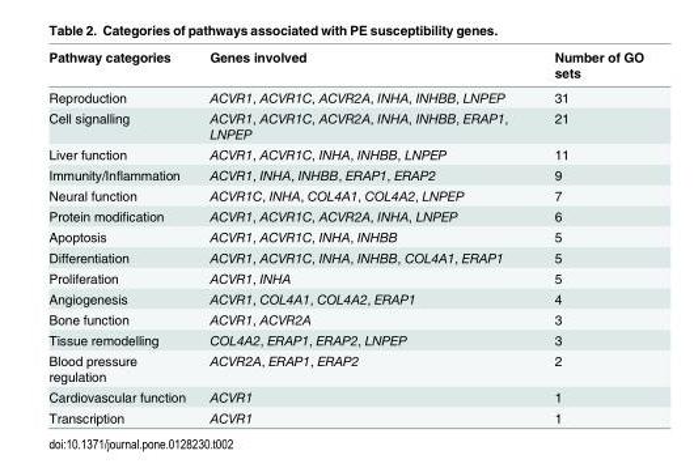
<table><thead><tr><td>Pathway categories</td><td>Genes involved</td><td>Number of GO sets</td></tr></thead><tbody><tr><td>Reproduction</td><td>ACVR1, ACVR1C, ACVR2A, INHA, INHBB, LNPEP</td><td>31</td></tr><tr><td>Cell signalling</td><td>ACVR1, ACVR1C, ACVR2A, INHA, INHBB, ERAP1, LNPEP</td><td>21</td></tr><tr><td>Liver function</td><td>ACVR1, ACVR1C, INHA, INHBB, LNPEP</td><td>11</td></tr><tr><td>Immunity/Inflammation</td><td>ACVR1, INHA, INHBB, ERAP1, ERAP2</td><td>9</td></tr><tr><td>Neural function</td><td>ACVR1C, INHA, COL4A1, COL4A2, LNPEP</td><td>7</td></tr><tr><td>Protein modification</td><td>ACVR1, ACVR1C, ACVR2A, INHA, LNPEP</td><td>6</td></tr><tr><td>Apoptosis</td><td>ACVR1, ACVR1C, INHA, INHBB</td><td>5</td></tr><tr><td>Differentiation</td><td>ACVR1, ACVR1C, INHA, INHBB, COL4A1, ERAP1</td><td>5</td></tr><tr><td>Proliferation</td><td>ACVR1, INHA</td><td>5</td></tr><tr><td>Angiogenesis</td><td>ACVR1, COL4A1, COL4A2, ERAP1</td><td>4</td></tr><tr><td>Bone function</td><td>ACVR1, ACVR2A</td><td>3</td></tr><tr><td>Tissue remodelling</td><td>COL4A2, ERAP1, ERAP2, LNPEP</td><td>3</td></tr><tr><td>Blood pressure regulation</td><td>ACVR2A, ERAP1, ERAP2</td><td>2</td></tr><tr><td>Cardiovascular function</td><td>ACVR1</td><td>1</td></tr><tr><td>Transcription</td><td>ACVR1</td><td>1</td></tr></tbody></table>